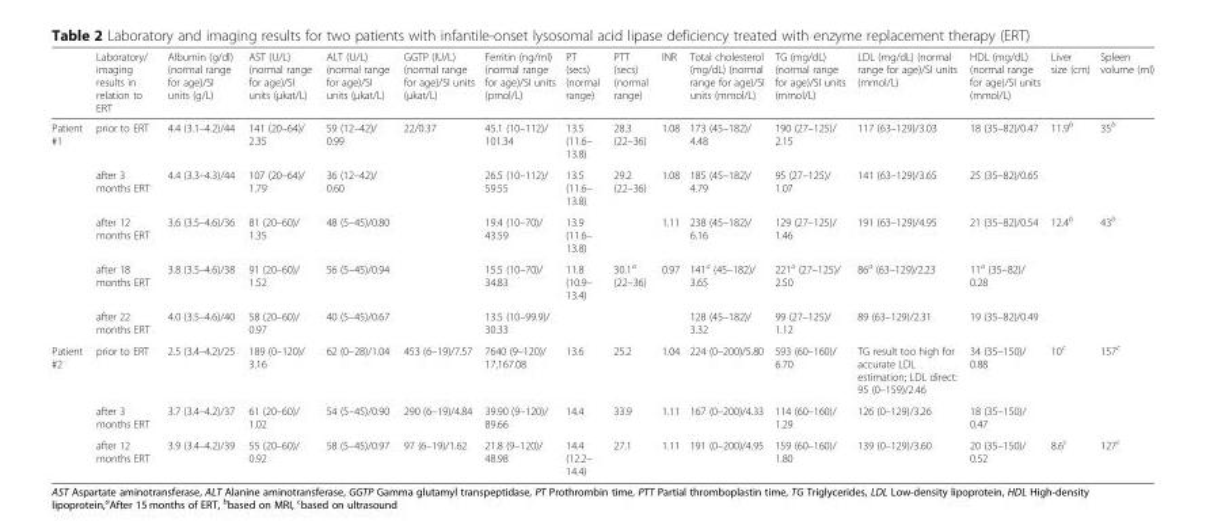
<table><thead><tr><td></td><td>Laboratory/ imaging results in relation to ERT</td><td>Albumin (g/dl) (normal range for age)/SI units (g/L)</td><td>AST (U/L) (normal range for age)/SI units (μkat/L)</td><td>ALT (U/L) (normal range for age)/SI units (μkat/L)</td><td>GGTP (IU/L) (normal range for age)/SI units (μkat/L)</td><td>Ferritin (ng/ml) (normal range for age)/SI units (pmol/L)</td><td>PT (secs) (normal range)</td><td>PTT (secs) (normal range)</td><td>INR</td><td>Total cholesterol (mg/dL) (normal range for age)/SI units (mmol/L)</td><td>TG (mg/dL) (normal range for age)/SI units (mmol/L)</td><td>LDL (mg/dL) (normal range for age)/SI units (mmol/L)</td><td>HDL (mg/dL) (normal range for age)/SI units (mmol/L)</td><td>Liver size (cm)</td><td>Spleen volume (ml)</td></tr></thead><tbody><tr><td rowspan="5">Patient #1</td><td>prior to ERT</td><td>4.4 (3.1–4.2)/44</td><td>141 (20–64)/ 2.35</td><td>59 (12–42)/ 0.99</td><td>22/0.37</td><td>45.1 (10–112)/ 101.34</td><td>13.5 (11.6– 13.8)</td><td>28.3 (22–36)</td><td>1.08</td><td>173 (45–182)/ 4.48</td><td>190 (27–125)/ 2.15</td><td>117 (63–129)/3.03</td><td>18 (35–82)/0.47</td><td>11.9<sup>b</sup></td><td>35<sup>b</sup></td></tr><tr><td>after 3 months ERT</td><td>4.4 (3.3–4.3)/44</td><td>107 (20–64)/ 1.79</td><td>36 (12–42)/ 0.60</td><td></td><td>26.5 (10–112)/ 59.55</td><td>13.5 (11.6– 13.8)</td><td>29.2 (22–36)</td><td>1.08</td><td>185 (45–182)/ 4.79</td><td>95 (27–125)/ 1.07</td><td>141 (63–129)/3.65</td><td>25 (35–82)/0.65</td><td></td><td></td></tr><tr><td>after 12 months ERT</td><td>3.6 (3.5–4.6)/36</td><td>81 (20–60)/ 1.35</td><td>48 (5–45)/0.80</td><td></td><td>19.4 (10–70)/ 43.59</td><td>13.9 (11.6– 13.8)</td><td></td><td>1.11</td><td>238 (45–182)/ 6.16</td><td>129 (27–125)/ 1.46</td><td>191 (63–129)/4.95</td><td>21 (35–82)/0.54</td><td>12.4<sup>b</sup></td><td>43<sup>b</sup></td></tr><tr><td>after 18 months ERT</td><td>3.8 (3.5–4.6)/38</td><td>91 (20–60)/ 1.52</td><td>56 (5–45)/0.94</td><td></td><td>15.5 (10–70)/ 34.83</td><td>11.8 (10.9– 13.4)</td><td>30.1<sup>a</sup> (22–36)</td><td>0.97</td><td>141<sup>a</sup> (45–182)/ 3.65</td><td>221<sup>a</sup> (27–125)/ 2.50</td><td>86<sup>a</sup> (63–129)/2.23</td><td>11<sup>a</sup> (35–82)/ 0.28</td><td></td><td></td></tr><tr><td>after 22 months ERT</td><td>4.0 (3.5–4.6)/40</td><td>58 (20–60)/ 0.97</td><td>40 (5–45)/0.67</td><td></td><td>13.5 (10–99.9)/ 30.33</td><td></td><td></td><td></td><td>128 (45–182)/ 3.32</td><td>99 (27–125)/ 1.12</td><td>89 (63–129)/2.31</td><td>19 (35–82)/0.49</td><td></td><td></td></tr><tr><td rowspan="3">Patient #2</td><td>prior to ERT</td><td>2.5 (3.4–4.2)/25</td><td>189 (0–120)/ 3.16</td><td>62 (0–28)/1.04</td><td>453 (6–19)/7.57</td><td>7640 (9–120)/ 17,167.08</td><td>13.6</td><td>25.2</td><td>1.04</td><td>224 (0–200)/5.80</td><td>593 (60–160)/ 6.70</td><td>TG result too high for accurate LDL estimation; LDL direct: 95 (0–159)/2.46</td><td>34 (35–150)/ 0.88</td><td>10<sup>c</sup></td><td>157<sup>c</sup></td></tr><tr><td>after 3 months ERT</td><td>3.7 (3.4–4.2)/37</td><td>61 (20–60)/ 1.02</td><td>54 (5–45)/0.90</td><td>290 (6–19)/4.84</td><td>39.90 (9–120)/ 89.66</td><td>14.4</td><td>33.9</td><td>1.11</td><td>167 (0–200)/4.33</td><td>114 (60–160)/ 1.29</td><td>126 (0–129)/3.26</td><td>18 (35–150)/ 0.47</td><td></td><td></td></tr><tr><td>after 12 months ERT</td><td>3.9 (3.4–4.2)/39</td><td>55 (20–60)/ 0.92</td><td>58 (5–45)/0.97</td><td>97 (6–19)/1.62</td><td>21.8 (9–120)/ 48.98</td><td>14.4 (12.2– 14.4)</td><td>27.1</td><td>1.11</td><td>191 (0–200)/4.95</td><td>159 (60–160)/ 1.80</td><td>139 (0–129)/3.60</td><td>20 (35–150)/ 0.52</td><td>8.6<sup>c</sup></td><td>127<sup>c</sup></td></tr></tbody></table>